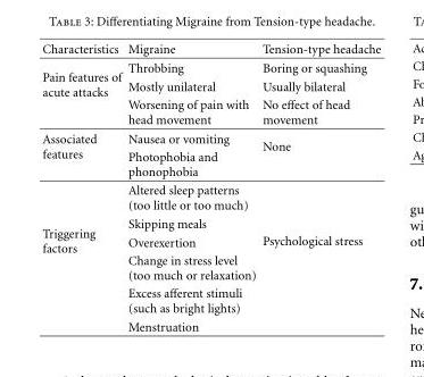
<table><thead><tr><td>Characteristics</td><td>Migraine</td><td>Tension-type headache</td></tr></thead><tbody><tr><td rowspan="3">Pain features of acute attacks</td><td>Throbbing</td><td>Boring or squashing</td></tr><tr><td>Mostly unilateral</td><td>Usually bilateral</td></tr><tr><td>Worsening of pain with head movement</td><td>No effect of head movement</td></tr><tr><td rowspan="2">Associated features</td><td>Nausea or vomiting</td><td rowspan="2">None</td></tr><tr><td>Photophobia and phonophobia</td></tr><tr><td rowspan="6">Triggering factors</td><td>Altered sleep patterns (too little or too much)</td><td rowspan="6">Psychological stress</td></tr><tr><td>Skipping meals</td></tr><tr><td>Overexertion</td></tr><tr><td>Change in stress level (too much or relaxation)</td></tr><tr><td>Excess afferent stimuli (such as bright lights)</td></tr><tr><td>Menstruation</td></tr></tbody></table>